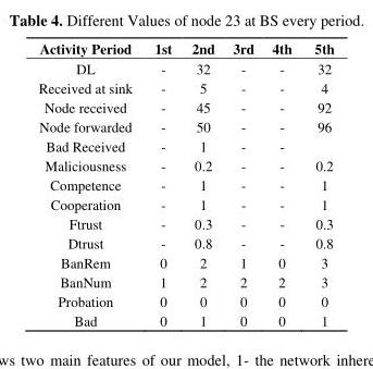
<table><thead><tr><td>Activity Period</td><td>1st</td><td>2nd</td><td>3rd</td><td>4th</td><td>5th</td></tr></thead><tbody><tr><td>DL</td><td>-</td><td>32</td><td>-</td><td>-</td><td>32</td></tr><tr><td>Received at sink</td><td>-</td><td>5</td><td>-</td><td>-</td><td>4</td></tr><tr><td>Node received</td><td>-</td><td>45</td><td>-</td><td>-</td><td>92</td></tr><tr><td>Node forwarded</td><td>-</td><td>50</td><td>-</td><td>-</td><td>96</td></tr><tr><td>Bad Received</td><td>-</td><td>1</td><td>-</td><td>-</td><td></td></tr><tr><td>Maliciousness</td><td>-</td><td>0.2</td><td>-</td><td>-</td><td>0.2</td></tr><tr><td>Competence</td><td>-</td><td>1</td><td>-</td><td>-</td><td>1</td></tr><tr><td>Cooperation</td><td>-</td><td>1</td><td>-</td><td>-</td><td>1</td></tr><tr><td>Ftrust</td><td>-</td><td>0.3</td><td>-</td><td>-</td><td>0.3</td></tr><tr><td>Dtrust</td><td>-</td><td>0.8</td><td>-</td><td>-</td><td>0.8</td></tr><tr><td>BanRem</td><td>0</td><td>2</td><td>1</td><td>0</td><td>3</td></tr><tr><td>BanNum</td><td>1</td><td>2</td><td>2</td><td>2</td><td>3</td></tr><tr><td>Probation</td><td>0</td><td>0</td><td>0</td><td>0</td><td>0</td></tr><tr><td>Bad</td><td>0</td><td>1</td><td>0</td><td>0</td><td>1</td></tr></tbody></table>